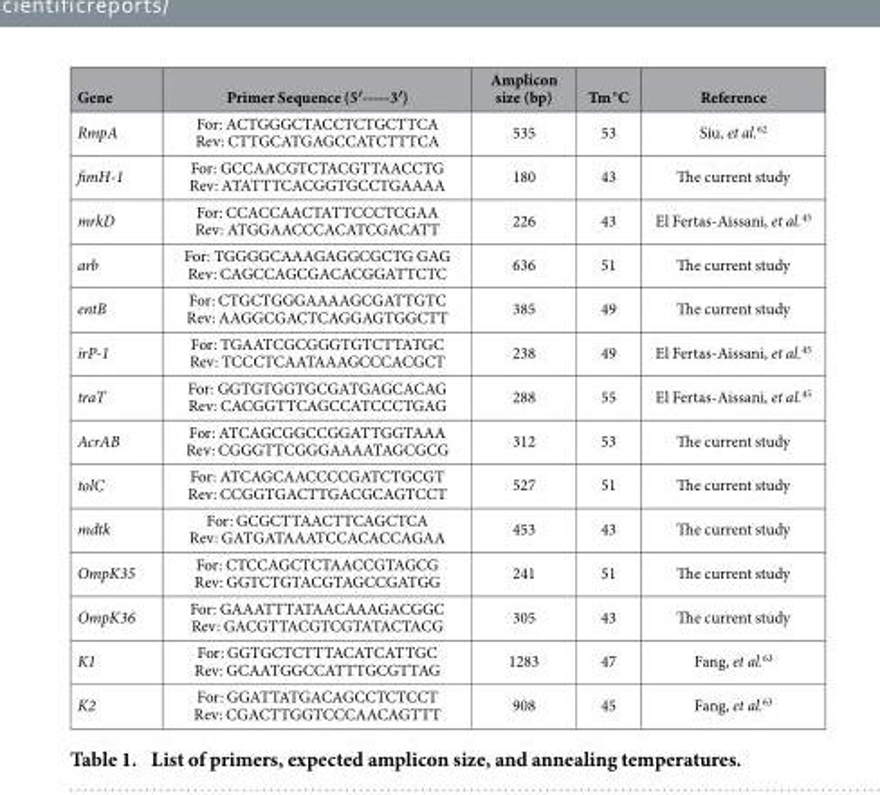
<table><thead><tr><td>Gene</td><td>Primer Sequence (5′-----3′)</td><td>Amplicon size (bp)</td><td>Tm °C</td><td>Reference</td></tr></thead><tbody><tr><td>RmpA</td><td>For: ACTGGGCTACCTCTGCTTCA Rev: CTTGCATGAGCCATCTTTCA</td><td>535</td><td>53</td><td>Siu, et al.<sup>62</sup></td></tr><tr><td>fimH-1</td><td>For: GCCAACGTCTACGTTAACCTG Rev: ATATTTCACGGTGCCTGAAAA</td><td>180</td><td>43</td><td>The current study</td></tr><tr><td>mrkD</td><td>For: CCACCAACTATTCCCTCGAA Rev: ATGGAACCCACATCGACATT</td><td>226</td><td>43</td><td>El Fertas-Aissani, et al.<sup>45</sup></td></tr><tr><td>arb</td><td>For: TGGGGCAAAGAGGCGCTG GAG Rev: CAGCCAGCGACACGGATTCTC</td><td>636</td><td>51</td><td>The current study</td></tr><tr><td>entB</td><td>For: CTGCTGGGAAAAGCGATTGTC Rev: AAGGCGACTCAGGAGTGGCTT</td><td>385</td><td>49</td><td>The current study</td></tr><tr><td>irP-1</td><td>For: TGAATCGCGGGTGTCTTATGC Rev: TCCCTCAATAAAGCCCACGCT</td><td>238</td><td>49</td><td>El Fertas-Aissani, et al.<sup>45</sup></td></tr><tr><td>traT</td><td>For: GGTGTGGTGCGATGAGCACAG Rev: CACGGTTCAGCCATCCCTGAG</td><td>288</td><td>55</td><td>El Fertas-Aissani, et al.<sup>45</sup></td></tr><tr><td>AcrAB</td><td>For: ATCAGCGGCCGGATTGGTAAA Rev: CGGGTTCGGGAAAATAGCGCG</td><td>312</td><td>53</td><td>The current study</td></tr><tr><td>tolC</td><td>For: ATCAGCAACCCCGATCTGCGT Rev: CCGGTGACTTGACGCAGTCCT</td><td>527</td><td>51</td><td>The current study</td></tr><tr><td>mdtk</td><td>For: GCGCTTAACTTCAGCTCA Rev: GATGATAAATCCACACCAGAA</td><td>453</td><td>43</td><td>The current study</td></tr><tr><td>OmpK35</td><td>For: CTCCAGCTCTAACCGTAGCG Rev: GGTCTGTACGTAGCCGATGG</td><td>241</td><td>51</td><td>The current study</td></tr><tr><td>OmpK36</td><td>For: GAAATTTATAACAAAGACGGC Rev: GACGTTACGTCGTATACTACG</td><td>305</td><td>43</td><td>The current study</td></tr><tr><td>K1</td><td>For: GGTGCTCTTTACATCATTGC Rev: GCAATGGCCATTTGCGTTAG</td><td>1283</td><td>47</td><td>Fang, et al.<sup>63</sup></td></tr><tr><td>K2</td><td>For: GGATTATGACAGCCTCTCCT Rev: CGACTTGGTCCCAACAGTTT</td><td>908</td><td>45</td><td>Fang, et al.<sup>63</sup></td></tr></tbody></table>